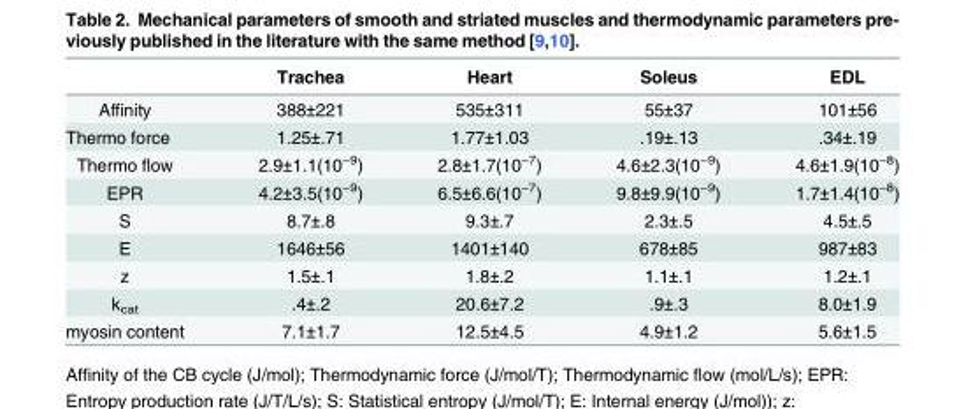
<table><thead><tr><td></td><td>Trachea</td><td>Heart</td><td>Soleus</td><td>EDL</td></tr></thead><tbody><tr><td>Affinity</td><td>388±221</td><td>535±311</td><td>55±37</td><td>101±56</td></tr><tr><td>Thermo force</td><td>1.25±.71</td><td>1.77±1.03</td><td>.19±.13</td><td>.34±.19</td></tr><tr><td>Thermo flow</td><td>2.9±1.1(10<sup>−9</sup>)</td><td>2.8±1.7(10<sup>−7</sup>)</td><td>4.6±2.3(10<sup>−9</sup>)</td><td>4.6±1.9(10<sup>−8</sup>)</td></tr><tr><td>EPR</td><td>4.2±3.5(10<sup>−9</sup>)</td><td>6.5±6.6(10<sup>−7</sup>)</td><td>9.8±9.9(10<sup>−9</sup>)</td><td>1.7±1.4(10<sup>−8</sup>)</td></tr><tr><td>S</td><td>8.7±.8</td><td>9.3±.7</td><td>2.3±.5</td><td>4.5±.5</td></tr><tr><td>E</td><td>1646±56</td><td>1401±140</td><td>678±85</td><td>987±83</td></tr><tr><td>z</td><td>1.5±.1</td><td>1.8±.2</td><td>1.1±.1</td><td>1.2±.1</td></tr><tr><td>k<sub>cat</sub></td><td>.4±.2</td><td>20.6±7.2</td><td>.9±.3</td><td>8.0±1.9</td></tr><tr><td>myosin content</td><td>7.1±1.7</td><td>12.5±4.5</td><td>4.9±1.2</td><td>5.6±1.5</td></tr></tbody></table>